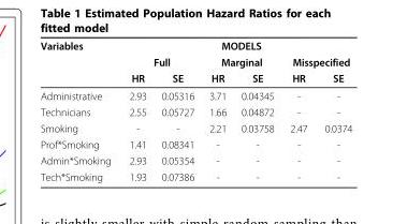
<table><thead><tr><td rowspan="3">Variables</td><td colspan="6">MODELS</td></tr><tr><td colspan="2">Full</td><td colspan="2">Marginal</td><td colspan="2">Misspecified</td></tr><tr><td>HR</td><td>SE</td><td>HR</td><td>SE</td><td>HR</td><td>SE</td></tr></thead><tbody><tr><td>Administrative</td><td>2.93</td><td>0.05316</td><td>3.71</td><td>0.04345</td><td>-</td><td>-</td></tr><tr><td>Technicians</td><td>2.55</td><td>0.05727</td><td>1.66</td><td>0.04872</td><td>-</td><td>-</td></tr><tr><td>Smoking</td><td>-</td><td>-</td><td>2.21</td><td>0.03758</td><td>2.47</td><td>0.0374</td></tr><tr><td>Prof*Smoking</td><td>1.41</td><td>0.08341</td><td>-</td><td>-</td><td>-</td><td>-</td></tr><tr><td>Admin*Smoking</td><td>2.93</td><td>0.05354</td><td>-</td><td>-</td><td>-</td><td>-</td></tr><tr><td>Tech*Smoking</td><td>1.93</td><td>0.07386</td><td>-</td><td>-</td><td>-</td><td>-</td></tr></tbody></table>